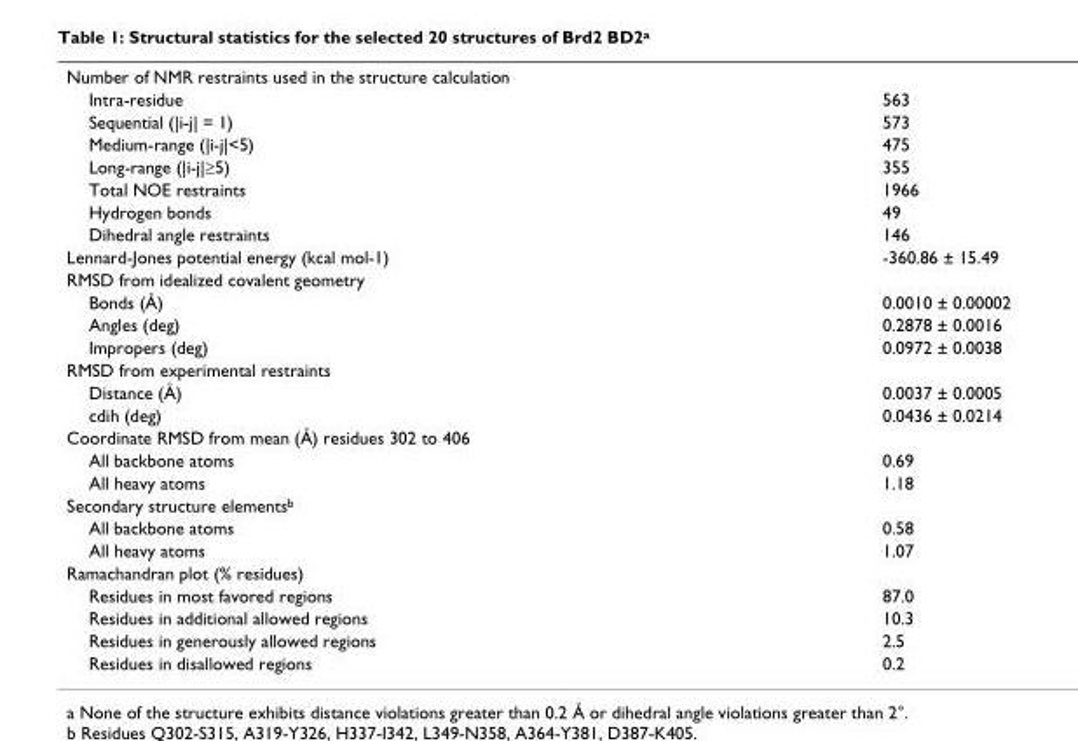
<table><tbody><tr><td colspan="2">Number of NMR restraints used in the structure calculation</td></tr><tr><td>Intra-residue</td><td>563</td></tr><tr><td>Sequential (|i-j| = 1)</td><td>573</td></tr><tr><td>Medium-range (|i-j|&lt;5)</td><td>475</td></tr><tr><td>Long-range (|i-j|≥5)</td><td>355</td></tr><tr><td>Total NOE restraints</td><td>1966</td></tr><tr><td>Hydrogen bonds</td><td>49</td></tr><tr><td>Dihedral angle restraints</td><td>146</td></tr><tr><td>Lennard-Jones potential energy (kcal mol-1)</td><td>-360.86 ± 15.49</td></tr><tr><td colspan="2">RMSD from idealized covalent geometry</td></tr><tr><td>Bonds (Å)</td><td>0.0010 ± 0.00002</td></tr><tr><td>Angles (deg)</td><td>0.2878 ± 0.0016</td></tr><tr><td>Impropers (deg)</td><td>0.0972 ± 0.0038</td></tr><tr><td colspan="2">RMSD from experimental restraints</td></tr><tr><td>Distance (Å)</td><td>0.0037 ± 0.0005</td></tr><tr><td>cdih (deg)</td><td>0.0436 ± 0.0214</td></tr><tr><td colspan="2">Coordinate RMSD from mean (Å) residues 302 to 406</td></tr><tr><td>All backbone atoms</td><td>0.69</td></tr><tr><td>All heavy atoms</td><td>1.18</td></tr><tr><td colspan="2">Secondary structure elements<sup>b</sup></td></tr><tr><td>All backbone atoms</td><td>0.58</td></tr><tr><td>All heavy atoms</td><td>1.07</td></tr><tr><td colspan="2">Ramachandran plot (% residues)</td></tr><tr><td>Residues in most favored regions</td><td>87.0</td></tr><tr><td>Residues in additional allowed regions</td><td>10.3</td></tr><tr><td>Residues in generously allowed regions</td><td>2.5</td></tr><tr><td>Residues in disallowed regions</td><td>0.2</td></tr></tbody></table>